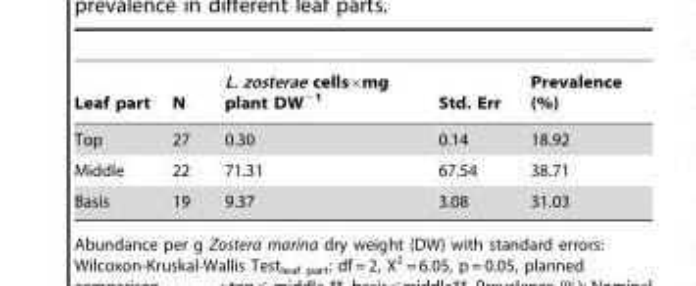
<table><thead><tr><td>Leaf part</td><td>N</td><td>L. zosterae cells×mg plant DW<sup>−1</sup></td><td>Std. Err</td><td>Prevalence (%)</td></tr></thead><tbody><tr><td>Top</td><td>27</td><td>0.30</td><td>0.14</td><td>18.92</td></tr><tr><td>Middle</td><td>22</td><td>71.31</td><td>67.54</td><td>38.71</td></tr><tr><td>Basis</td><td>19</td><td>9.37</td><td>3.08</td><td>31.03</td></tr></tbody></table>